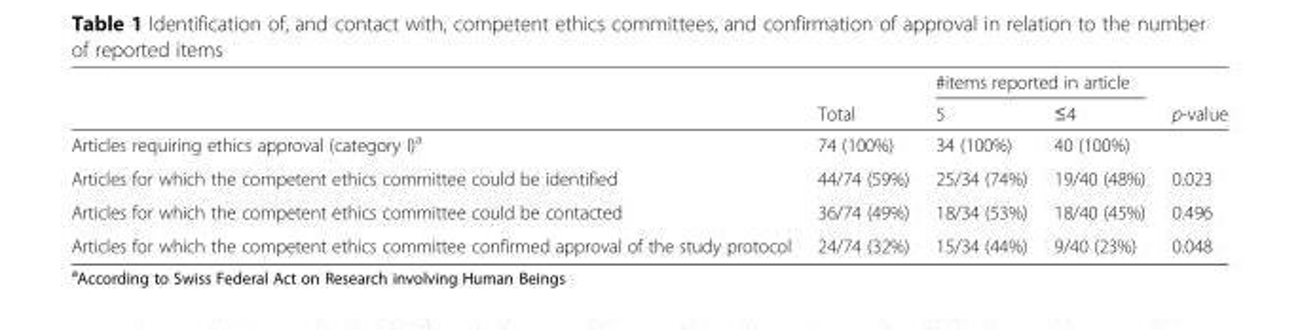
<table><thead><tr><td rowspan="2"></td><td rowspan="2">Total</td><td colspan="2">#items reported in article</td><td rowspan="2">p-value</td></tr><tr><td>5</td><td>≤4</td></tr></thead><tbody><tr><td>Articles requiring ethics approval (category I)<sup>a</sup></td><td>74 (100%)</td><td>34 (100%)</td><td>40 (100%)</td><td></td></tr><tr><td>Articles for which the competent ethics committee could be identified</td><td>44/74 (59%)</td><td>25/34 (74%)</td><td>19/40 (48%)</td><td>0.023</td></tr><tr><td>Articles for which the competent ethics committee could be contacted</td><td>36/74 (49%)</td><td>18/34 (53%)</td><td>18/40 (45%)</td><td>0.496</td></tr><tr><td>Articles for which the competent ethics committee confirmed approval of the study protocol</td><td>24/74 (32%)</td><td>15/34 (44%)</td><td>9/40 (23%)</td><td>0.048</td></tr></tbody></table>